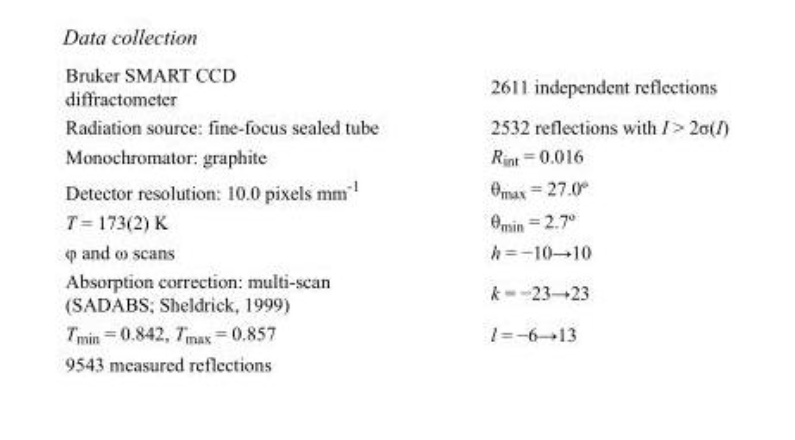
<table><tbody><tr><td>Bruker SMART CCD diffractometer</td><td>2611 independent reflections</td></tr><tr><td>Radiation source: fine-focus sealed tube</td><td>2532 reflections with I &gt; 2σ(I)</td></tr><tr><td>Monochromator: graphite</td><td>R<sub>int</sub> = 0.016</td></tr><tr><td>Detector resolution: 10.0 pixels mm<sup>-1</sup></td><td>θ<sub>max</sub> = 27.0º</td></tr><tr><td>T = 173(2) K</td><td>θ<sub>min</sub> = 2.7º</td></tr><tr><td>φ and ω scans</td><td>h = −10→10</td></tr><tr><td>Absorption correction: multi-scan (SADABS; Sheldrick, 1999)</td><td>k = −23→23</td></tr><tr><td>T<sub>min</sub> = 0.842, T<sub>max</sub> = 0.857</td><td>l = −6→13</td></tr><tr><td>9543 measured reflections</td><td></td></tr></tbody></table>